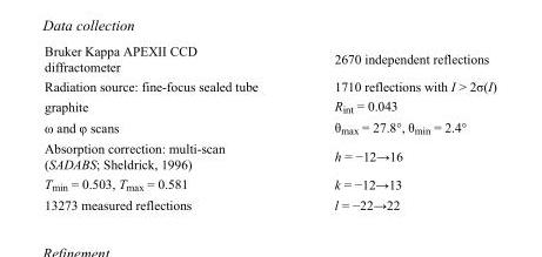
<table><tbody><tr><td>Bruker Kappa APEXII CCD diffractometer</td><td>2670 independent reflections</td></tr><tr><td>Radiation source: fine-focus sealed tube</td><td>1710 reflections with I &gt; 2σ(I)</td></tr><tr><td>graphite</td><td>R<sub>int</sub> = 0.043</td></tr><tr><td>ω and φ scans</td><td>θ<sub>max</sub> = 27.8°, θ<sub>min</sub> = 2.4°</td></tr><tr><td>Absorption correction: multi-scan (SADABS; Sheldrick, 1996)</td><td>h = −12→16</td></tr><tr><td>T<sub>min</sub> = 0.503, T<sub>max</sub> = 0.581</td><td>k = −12→13</td></tr><tr><td>13273 measured reflections</td><td>l = −22→22</td></tr></tbody></table>